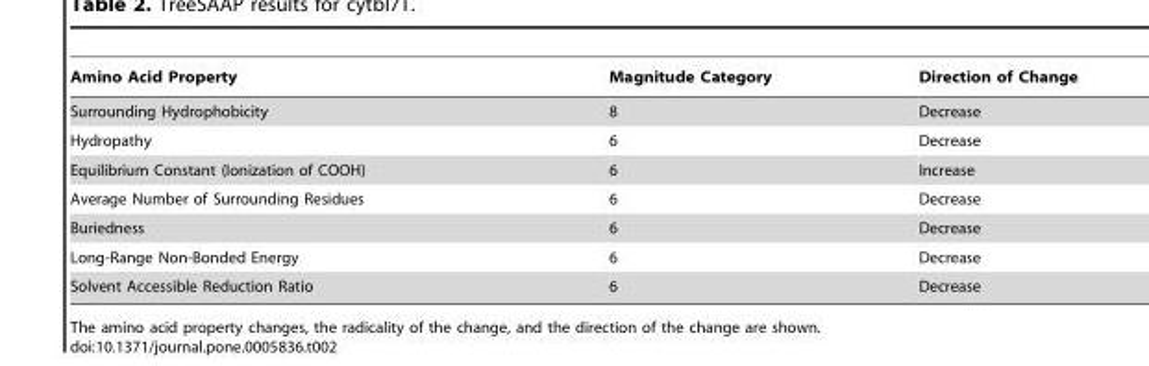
<table><thead><tr><td>Amino Acid Property</td><td>Magnitude Category</td><td>Direction of Change</td></tr></thead><tbody><tr><td>Surrounding Hydrophobicity</td><td>8</td><td>Decrease</td></tr><tr><td>Hydropathy</td><td>6</td><td>Decrease</td></tr><tr><td>Equilibrium Constant (Ionization of COOH)</td><td>6</td><td>Increase</td></tr><tr><td>Average Number of Surrounding Residues</td><td>6</td><td>Decrease</td></tr><tr><td>Buriedness</td><td>6</td><td>Decrease</td></tr><tr><td>Long-Range Non-Bonded Energy</td><td>6</td><td>Decrease</td></tr><tr><td>Solvent Accessible Reduction Ratio</td><td>6</td><td>Decrease</td></tr></tbody></table>